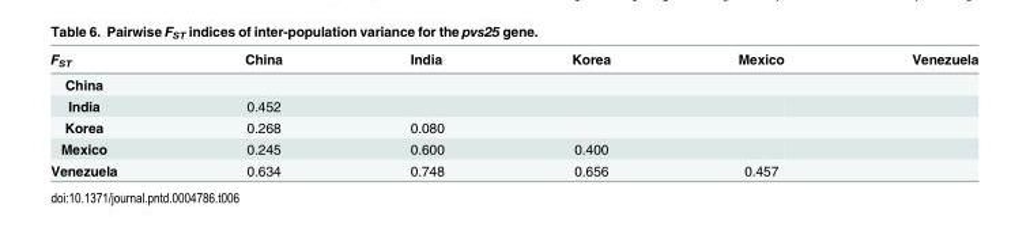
<table><thead><tr><td>F<sub>ST</sub></td><td>China</td><td>India</td><td>Korea</td><td>Mexico</td><td>Venezuela</td></tr></thead><tbody><tr><td colspan="6">China</td></tr><tr><td>India</td><td>0.452</td><td></td><td></td><td></td><td></td></tr><tr><td>Korea</td><td>0.268</td><td>0.080</td><td></td><td></td><td></td></tr><tr><td>Mexico</td><td>0.245</td><td>0.600</td><td>0.400</td><td></td><td></td></tr><tr><td>Venezuela</td><td>0.634</td><td>0.748</td><td>0.656</td><td>0.457</td><td></td></tr></tbody></table>